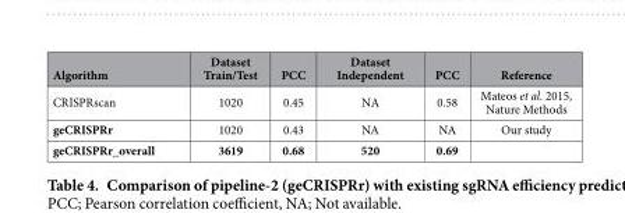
<table><thead><tr><td>Algorithm</td><td>Dataset Train/Test</td><td>PCC</td><td>Dataset Independent</td><td>PCC</td><td>Reference</td></tr></thead><tbody><tr><td>CRISPRscan</td><td>1020</td><td>0.45</td><td>NA</td><td>0.58</td><td>Mateos et al. 2015, Nature Methods</td></tr><tr><td>geCRISPRr</td><td>1020</td><td>0.43</td><td>NA</td><td>NA</td><td>Our study</td></tr><tr><td>geCRISPRr_overall</td><td>3619</td><td>0.68</td><td>520</td><td>0.69</td><td></td></tr></tbody></table>